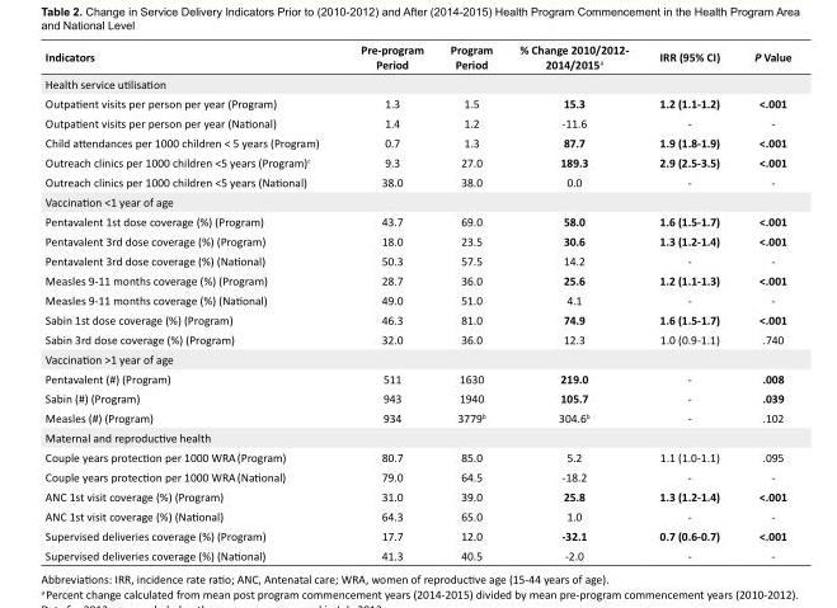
<table><tbody><tr><td>Indicators</td><td>Pre-program Period</td><td>Program Period</td><td>% Change 2010/2012- 2014/2015<sup>a</sup></td><td>IRR (95% CI)</td><td>P Value</td></tr><tr><td colspan="6">Health service utilisation</td></tr><tr><td>Outpatient visits per person per year (Program)</td><td>1.3</td><td>1.5</td><td>15.3</td><td>1.2 (1.1-1.2)</td><td>&lt;.001</td></tr><tr><td>Outpatient visits per person per year (National)</td><td>1.4</td><td>1.2</td><td>-11.6</td><td>-</td><td>-</td></tr><tr><td>Child attendances per 1000 children &lt; 5 years (Program)</td><td>0.7</td><td>1.3</td><td>87.7</td><td>1.9 (1.8-1.9)</td><td>&lt;.001</td></tr><tr><td>Outreach clinics per 1000 children &lt;5 years (Program)<sup>c</sup></td><td>9.3</td><td>27.0</td><td>189.3</td><td>2.9 (2.5-3.5)</td><td>&lt;.001</td></tr><tr><td>Outreach clinics per 1000 children &lt;5 years (National)</td><td>38.0</td><td>38.0</td><td>0.0</td><td>-</td><td>-</td></tr><tr><td colspan="6">Vaccination &lt;1 year of age</td></tr><tr><td>Pentavalent 1st dose coverage (%) (Program)</td><td>43.7</td><td>69.0</td><td>58.0</td><td>1.6 (1.5-1.7)</td><td>&lt;.001</td></tr><tr><td>Pentavalent 3rd dose coverage (%) (Program)</td><td>18.0</td><td>23.5</td><td>30.6</td><td>1.3 (1.2-1.4)</td><td>&lt;.001</td></tr><tr><td>Pentavalent 3rd dose coverage (%) (National)</td><td>50.3</td><td>57.5</td><td>14.2</td><td>-</td><td>-</td></tr><tr><td>Measles 9-11 months coverage (%) (Program)</td><td>28.7</td><td>36.0</td><td>25.6</td><td>1.2 (1.1-1.3)</td><td>&lt;.001</td></tr><tr><td>Measles 9-11 months coverage (%) (National)</td><td>49.0</td><td>51.0</td><td>4.1</td><td>-</td><td>-</td></tr><tr><td>Sabin 1st dose coverage (%) (Program)</td><td>46.3</td><td>81.0</td><td>74.9</td><td>1.6 (1.5-1.7)</td><td>&lt;.001</td></tr><tr><td>Sabin 3rd dose coverage (%) (Program)</td><td>32.0</td><td>36.0</td><td>12.3</td><td>1.0 (0.9-1.1)</td><td>.740</td></tr><tr><td colspan="6">Vaccination &gt;1 year of age</td></tr><tr><td>Pentavalent (#) (Program)</td><td>511</td><td>1630</td><td>219.0</td><td>-</td><td>.008</td></tr><tr><td>Sabin (#) (Program)</td><td>943</td><td>1940</td><td>105.7</td><td>-</td><td>.039</td></tr><tr><td>Measles (#) (Program)</td><td>934</td><td>3779<sup>b</sup></td><td>304.6<sup>b</sup></td><td>-</td><td>.102</td></tr><tr><td colspan="6">Maternal and reproductive health</td></tr><tr><td>Couple years protection per 1000 WRA (Program)</td><td>80.7</td><td>85.0</td><td>5.2</td><td>1.1 (1.0-1.1)</td><td>.095</td></tr><tr><td>Couple years protection per 1000 WRA (National)</td><td>79.0</td><td>64.5</td><td>-18.2</td><td>-</td><td>-</td></tr><tr><td>ANC 1st visit coverage (%) (Program)</td><td>31.0</td><td>39.0</td><td>25.8</td><td>1.3 (1.2-1.4)</td><td>&lt;.001</td></tr><tr><td>ANC 1st visit coverage (%) (National)</td><td>64.3</td><td>65.0</td><td>1.0</td><td>-</td><td>-</td></tr><tr><td>Supervised deliveries coverage (%) (Program)</td><td>17.7</td><td>12.0</td><td>-32.1</td><td>0.7 (0.6-0.7)</td><td>&lt;.001</td></tr><tr><td>Supervised deliveries coverage (%) (National)</td><td>41.3</td><td>40.5</td><td>-2.0</td><td>-</td><td>-</td></tr></tbody></table>